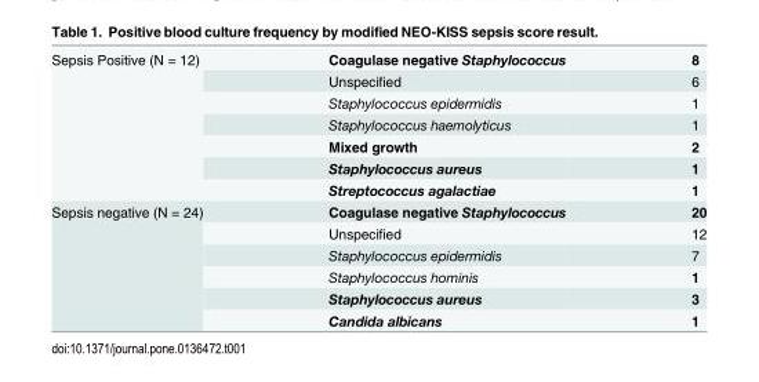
<table><tbody><tr><td rowspan="7">Sepsis Positive (N = 12)</td><td>Coagulase negative Staphylococcus</td><td>8</td></tr><tr><td>Unspecified</td><td>6</td></tr><tr><td>Staphylococcus epidermidis</td><td>1</td></tr><tr><td>Staphylococcus haemolyticus</td><td>1</td></tr><tr><td>Mixed growth</td><td>2</td></tr><tr><td>Staphylococcus aureus</td><td>1</td></tr><tr><td>Streptococcus agalactiae</td><td>1</td></tr><tr><td rowspan="6">Sepsis negative (N = 24)</td><td>Coagulase negative Staphylococcus</td><td>20</td></tr><tr><td>Unspecified</td><td>12</td></tr><tr><td>Staphylococcus epidermidis</td><td>7</td></tr><tr><td>Staphylococcus hominis</td><td>1</td></tr><tr><td>Staphylococcus aureus</td><td>3</td></tr><tr><td>Candida albicans</td><td>1</td></tr></tbody></table>